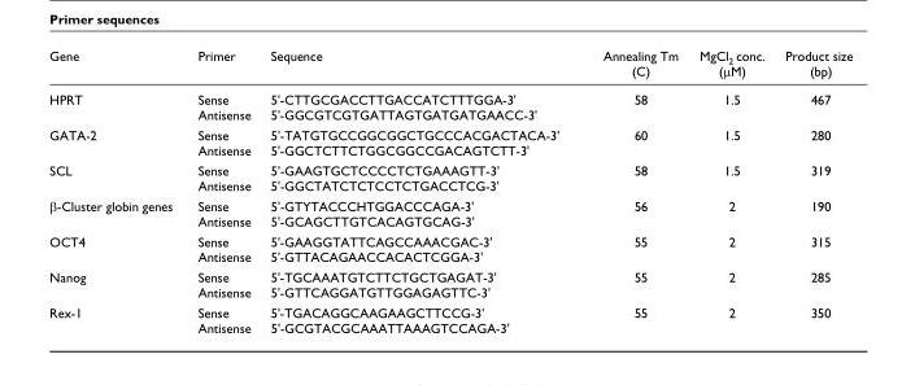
<table><thead><tr><td>Gene</td><td>Primer</td><td>Sequence</td><td>Annealing Tm (C)</td><td>MgCl<sub>2</sub> conc. (μM)</td><td>Product size (bp)</td></tr></thead><tbody><tr><td>HPRT</td><td>Sense Antisense</td><td>5&#x27;-CTTGCGACCTTGACCATCTTTGGA-3&#x27; 5&#x27;-GGCGTCGTGATTAGTGATGATGAACC-3&#x27;</td><td>58</td><td>1.5</td><td>467</td></tr><tr><td>GATA-2</td><td>Sense Antisense</td><td>5&#x27;-TATGTGCCGGCGGCTGCCCACGACTACA-3&#x27; 5&#x27;-GGCTCTTCTGGCGGCCGACAGTCTT-3&#x27;</td><td>60</td><td>1.5</td><td>280</td></tr><tr><td>SCL</td><td>Sense Antisense</td><td>5&#x27;-GAAGTGCTCCCCTCTGAAAGTT-3&#x27; 5&#x27;-GGCTATCTCTCCTCTGACCTCG-3&#x27;</td><td>58</td><td>1.5</td><td>319</td></tr><tr><td>β-Cluster globin genes</td><td>Sense Antisense</td><td>5&#x27;-GTYTACCCHTGGACCCAGA-3&#x27; 5&#x27;-GCAGCTTGTCACAGTGCAG-3&#x27;</td><td>56</td><td>2</td><td>190</td></tr><tr><td>OCT4</td><td>Sense Antisense</td><td>5&#x27;-GAAGGTATTCAGCCAAACGAC-3&#x27; 5&#x27;-GTTACAGAACCACACTCGGA-3&#x27;</td><td>55</td><td>2</td><td>315</td></tr><tr><td>Nanog</td><td>Sense Antisense</td><td>5&#x27;-TGCAAATGTCTTCTGCTGAGAT-3&#x27; 5&#x27;-GTTCAGGATGTTGGAGAGTTC-3&#x27;</td><td>55</td><td>2</td><td>285</td></tr><tr><td>Rex-1</td><td>Sense Antisense</td><td>5&#x27;-TGACAGGCAAGAAGCTTCCG-3&#x27; 5&#x27;-GCGTACGCAAATTAAAGTCCAGA-3&#x27;</td><td>55</td><td>2</td><td>350</td></tr></tbody></table>